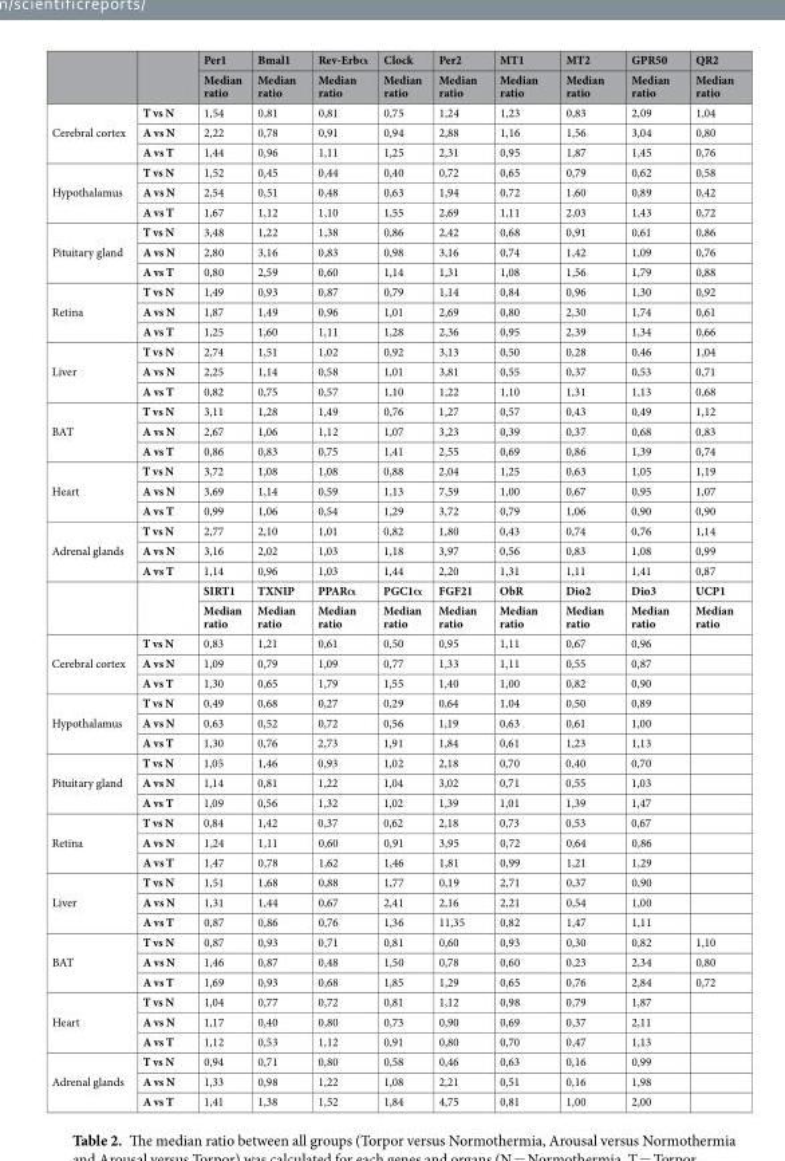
<table><thead><tr><td rowspan="2"></td><td rowspan="2"></td><td rowspan="2">Per1 Median ratio</td><td rowspan="2">Bmal1 Median ratio</td><td rowspan="2">Rev-Erbα Median ratio</td><td rowspan="2">Clock Median ratio</td><td rowspan="2">Per2 Median ratio</td><td rowspan="2">MT1 Median ratio</td><td rowspan="2">MT2 Median ratio</td><td rowspan="2">GPR50 Median ratio</td><td rowspan="2">QR2 Median ratio</td></tr><tr></tr></thead><tbody><tr><td rowspan="3">Cerebral cortex</td><td>T vs N</td><td>1,54</td><td>0,81</td><td>0,81</td><td>0,75</td><td>1,24</td><td>1,23</td><td>0,83</td><td>2,09</td><td>1,04</td></tr><tr><td>A vs N</td><td>2,22</td><td>0,78</td><td>0,91</td><td>0,94</td><td>2,88</td><td>1,16</td><td>1,56</td><td>3,04</td><td>0,80</td></tr><tr><td>A vs T</td><td>1,44</td><td>0,96</td><td>1,11</td><td>1,25</td><td>2,31</td><td>0,95</td><td>1,87</td><td>1,45</td><td>0,76</td></tr><tr><td rowspan="3">Hypothalamus</td><td>T vs N</td><td>1,52</td><td>0,45</td><td>0,44</td><td>0,40</td><td>0,72</td><td>0,65</td><td>0,79</td><td>0,62</td><td>0,58</td></tr><tr><td>A vs N</td><td>2,54</td><td>0,51</td><td>0,48</td><td>0,63</td><td>1,94</td><td>0,72</td><td>1,60</td><td>0,89</td><td>0,42</td></tr><tr><td>A vs T</td><td>1,67</td><td>1,12</td><td>1,10</td><td>1,55</td><td>2,69</td><td>1,11</td><td>2,03</td><td>1,43</td><td>0,72</td></tr><tr><td rowspan="3">Pituitary gland</td><td>T vs N</td><td>3,48</td><td>1,22</td><td>1,38</td><td>0,86</td><td>2,42</td><td>0,68</td><td>0,91</td><td>0,61</td><td>0,86</td></tr><tr><td>A vs N</td><td>2,80</td><td>3,16</td><td>0,83</td><td>0,98</td><td>3,16</td><td>0,74</td><td>1,42</td><td>1,09</td><td>0,76</td></tr><tr><td>A vs T</td><td>0,80</td><td>2,59</td><td>0,60</td><td>1,14</td><td>1,31</td><td>1,08</td><td>1,56</td><td>1,79</td><td>0,88</td></tr><tr><td rowspan="3">Retina</td><td>T vs N</td><td>1,49</td><td>0,93</td><td>0,87</td><td>0,79</td><td>1,14</td><td>0,84</td><td>0,96</td><td>1,30</td><td>0,92</td></tr><tr><td>A vs N</td><td>1,87</td><td>1,49</td><td>0,96</td><td>1,01</td><td>2,69</td><td>0,80</td><td>2,30</td><td>1,74</td><td>0,61</td></tr><tr><td>A vs T</td><td>1,25</td><td>1,60</td><td>1,11</td><td>1,28</td><td>2,36</td><td>0,95</td><td>2,39</td><td>1,34</td><td>0,66</td></tr><tr><td rowspan="3">Liver</td><td>T vs N</td><td>2,74</td><td>1,51</td><td>1,02</td><td>0,92</td><td>3,13</td><td>0,50</td><td>0,28</td><td>0,46</td><td>1,04</td></tr><tr><td>A vs N</td><td>2,25</td><td>1,14</td><td>0,58</td><td>1,01</td><td>3,81</td><td>0,55</td><td>0,37</td><td>0,53</td><td>0,71</td></tr><tr><td>A vs T</td><td>0,82</td><td>0,75</td><td>0,57</td><td>1,10</td><td>1,22</td><td>1,10</td><td>1,31</td><td>1,13</td><td>0,68</td></tr><tr><td rowspan="3">BAT</td><td>T vs N</td><td>3,11</td><td>1,28</td><td>1,49</td><td>0,76</td><td>1,27</td><td>0,57</td><td>0,43</td><td>0,49</td><td>1,12</td></tr><tr><td>A vs N</td><td>2,67</td><td>1,06</td><td>1,12</td><td>1,07</td><td>3,23</td><td>0,39</td><td>0,37</td><td>0,68</td><td>0,83</td></tr><tr><td>A vs T</td><td>0,86</td><td>0,83</td><td>0,75</td><td>1,41</td><td>2,55</td><td>0,69</td><td>0,86</td><td>1,39</td><td>0,74</td></tr><tr><td rowspan="3">Heart</td><td>T vs N</td><td>3,72</td><td>1,08</td><td>1,08</td><td>0,88</td><td>2,04</td><td>1,25</td><td>0,63</td><td>1,05</td><td>1,19</td></tr><tr><td>A vs N</td><td>3,69</td><td>1,14</td><td>0,59</td><td>1,13</td><td>7,59</td><td>1,00</td><td>0,67</td><td>0,95</td><td>1,07</td></tr><tr><td>A vs T</td><td>0,99</td><td>1,06</td><td>0,54</td><td>1,29</td><td>3,72</td><td>0,79</td><td>1,06</td><td>0,90</td><td>0,90</td></tr><tr><td rowspan="5">Adrenal glands</td><td>T vs N</td><td>2,77</td><td>2,10</td><td>1,01</td><td>0,82</td><td>1,80</td><td>0,43</td><td>0,74</td><td>0,76</td><td>1,14</td></tr><tr><td>A vs N</td><td>3,16</td><td>2,02</td><td>1,03</td><td>1,18</td><td>3,97</td><td>0,56</td><td>0,83</td><td>1,08</td><td>0,99</td></tr><tr><td>A vs T</td><td>1,14</td><td>0,96</td><td>1,03</td><td>1,44</td><td>2,20</td><td>1,31</td><td>1,11</td><td>1,41</td><td>0,87</td></tr><tr><td rowspan="2"></td><td>SIRT1</td><td>TXNIP</td><td>PPARα</td><td>PGC1α</td><td>FGF21</td><td>ObR</td><td>Dio2</td><td>Dio3</td><td>UCP1</td></tr><tr><td>Median ratio</td><td>Median ratio</td><td>Median ratio</td><td>Median ratio</td><td>Median ratio</td><td>Median ratio</td><td>Median ratio</td><td>Median ratio</td><td>Median ratio</td></tr><tr><td rowspan="3">Cerebral cortex</td><td>T vs N</td><td>0,83</td><td>1,21</td><td>0,61</td><td>0,50</td><td>0,95</td><td>1,11</td><td>0,67</td><td>0,96</td><td></td></tr><tr><td>A vs N</td><td>1,09</td><td>0,79</td><td>1,09</td><td>0,77</td><td>1,33</td><td>1,11</td><td>0,55</td><td>0,87</td><td></td></tr><tr><td>A vs T</td><td>1,30</td><td>0,65</td><td>1,79</td><td>1,55</td><td>1,40</td><td>1,00</td><td>0,82</td><td>0,90</td><td></td></tr><tr><td rowspan="3">Hypothalamus</td><td>T vs N</td><td>0,49</td><td>0,68</td><td>0,27</td><td>0,29</td><td>0,64</td><td>1,04</td><td>0,50</td><td>0,89</td><td></td></tr><tr><td>A vs N</td><td>0,63</td><td>0,52</td><td>0,72</td><td>0,56</td><td>1,19</td><td>0,63</td><td>0,61</td><td>1,00</td><td></td></tr><tr><td>A vs T</td><td>1,30</td><td>0,76</td><td>2,73</td><td>1,91</td><td>1,84</td><td>0,61</td><td>1,23</td><td>1,13</td><td></td></tr><tr><td rowspan="3">Pituitary gland</td><td>T vs N</td><td>1,05</td><td>1,46</td><td>0,93</td><td>1,02</td><td>2,18</td><td>0,70</td><td>0,40</td><td>0,70</td><td></td></tr><tr><td>A vs N</td><td>1,14</td><td>0,81</td><td>1,22</td><td>1,04</td><td>3,02</td><td>0,71</td><td>0,55</td><td>1,03</td><td></td></tr><tr><td>A vs T</td><td>1,09</td><td>0,56</td><td>1,32</td><td>1,02</td><td>1,39</td><td>1,01</td><td>1,39</td><td>1,47</td><td></td></tr><tr><td rowspan="3">Retina</td><td>T vs N</td><td>0,84</td><td>1,42</td><td>0,37</td><td>0,62</td><td>2,18</td><td>0,73</td><td>0,53</td><td>0,67</td><td></td></tr><tr><td>A vs N</td><td>1,24</td><td>1,11</td><td>0,60</td><td>0,91</td><td>3,95</td><td>0,72</td><td>0,64</td><td>0,86</td><td></td></tr><tr><td>A vs T</td><td>1,47</td><td>0,78</td><td>1,62</td><td>1,46</td><td>1,81</td><td>0,99</td><td>1,21</td><td>1,29</td><td></td></tr><tr><td rowspan="3">Liver</td><td>T vs N</td><td>1,51</td><td>1,68</td><td>0,88</td><td>1,77</td><td>0,19</td><td>2,71</td><td>0,37</td><td>0,90</td><td></td></tr><tr><td>A vs N</td><td>1,31</td><td>1,44</td><td>0,67</td><td>2,41</td><td>2,16</td><td>2,21</td><td>0,54</td><td>1,00</td><td></td></tr><tr><td>A vs T</td><td>0,87</td><td>0,86</td><td>0,76</td><td>1,36</td><td>11,35</td><td>0,82</td><td>1,47</td><td>1,11</td><td></td></tr><tr><td rowspan="3">BAT</td><td>T vs N</td><td>0,87</td><td>0,93</td><td>0,71</td><td>0,81</td><td>0,60</td><td>0,93</td><td>0,30</td><td>0,82</td><td>1,10</td></tr><tr><td>A vs N</td><td>1,46</td><td>0,87</td><td>0,48</td><td>1,50</td><td>0,78</td><td>0,60</td><td>0,23</td><td>2,34</td><td>0,80</td></tr><tr><td>A vs T</td><td>1,69</td><td>0,93</td><td>0,68</td><td>1,85</td><td>1,29</td><td>0,65</td><td>0,76</td><td>2,84</td><td>0,72</td></tr><tr><td rowspan="3">Heart</td><td>T vs N</td><td>1,04</td><td>0,77</td><td>0,72</td><td>0,81</td><td>1,12</td><td>0,98</td><td>0,79</td><td>1,87</td><td></td></tr><tr><td>A vs N</td><td>1,17</td><td>0,40</td><td>0,80</td><td>0,73</td><td>0,90</td><td>0,69</td><td>0,37</td><td>2,11</td><td></td></tr><tr><td>A vs T</td><td>1,12</td><td>0,53</td><td>1,12</td><td>0,91</td><td>0,80</td><td>0,70</td><td>0,47</td><td>1,13</td><td></td></tr><tr><td rowspan="3">Adrenal glands</td><td>T vs N</td><td>0,94</td><td>0,71</td><td>0,80</td><td>0,58</td><td>0,46</td><td>0,63</td><td>0,16</td><td>0,99</td><td></td></tr><tr><td>A vs N</td><td>1,33</td><td>0,98</td><td>1,22</td><td>1,08</td><td>2,21</td><td>0,51</td><td>0,16</td><td>1,98</td><td></td></tr><tr><td>A vs T</td><td>1,41</td><td>1,38</td><td>1,52</td><td>1,84</td><td>4,75</td><td>0,81</td><td>1,00</td><td>2,00</td><td></td></tr></tbody></table>